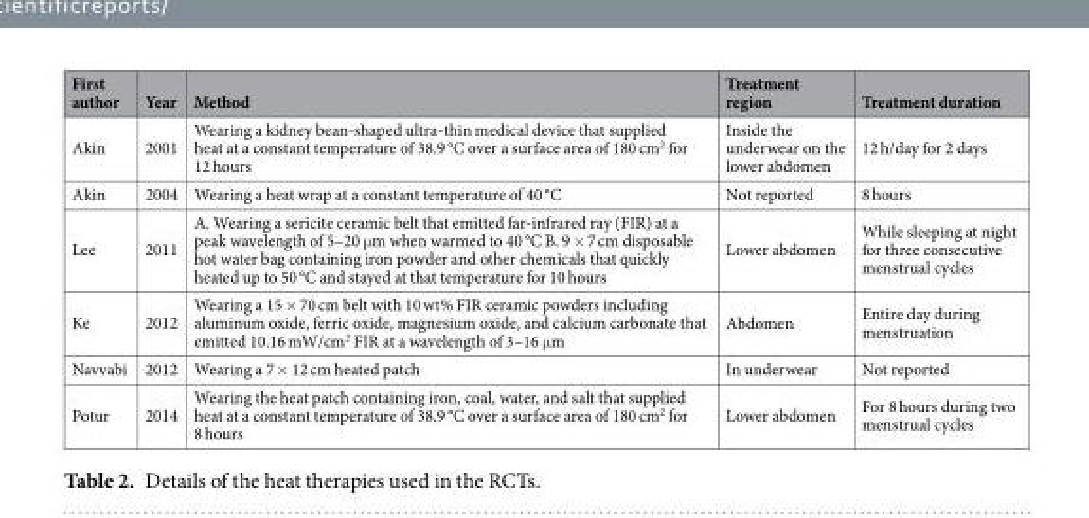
<table><thead><tr><td>First author</td><td>Year</td><td>Method</td><td>Treatment region</td><td>Treatment duration</td></tr></thead><tbody><tr><td>Akin</td><td>2001</td><td>Wearing a kidney bean-shaped ultra-thin medical device that supplied heat at a constant temperature of 38.9 °C over a surface area of 180 cm<sup>2</sup> for 12 hours</td><td>Inside the underwear on the lower abdomen</td><td>12 h/day for 2 days</td></tr><tr><td>Akin</td><td>2004</td><td>Wearing a heat wrap at a constant temperature of 40 °C</td><td>Not reported</td><td>8 hours</td></tr><tr><td>Lee</td><td>2011</td><td>A. Wearing a sericite ceramic belt that emitted far-infrared ray (FIR) at a peak wavelength of 5–20 μm when warmed to 40 °C B. 9 × 7 cm disposable hot water bag containing iron powder and other chemicals that quickly heated up to 50 °C and stayed at that temperature for 10 hours</td><td>Lower abdomen</td><td>While sleeping at night for three consecutive menstrual cycles</td></tr><tr><td>Ke</td><td>2012</td><td>Wearing a 15 × 70 cm belt with 10 wt% FIR ceramic powders including aluminum oxide, ferric oxide, magnesium oxide, and calcium carbonate that emitted 10.16 mW/cm<sup>2</sup> FIR at a wavelength of 3–16 μm</td><td>Abdomen</td><td>Entire day during menstruation</td></tr><tr><td>Navvabi</td><td>2012</td><td>Wearing a 7 × 12 cm heated patch</td><td>In underwear</td><td>Not reported</td></tr><tr><td>Potur</td><td>2014</td><td>Wearing the heat patch containing iron, coal, water, and salt that supplied heat at a constant temperature of 38.9 °C over a surface area of 180 cm<sup>2</sup> for 8 hours</td><td>Lower abdomen</td><td>For 8 hours during two menstrual cycles</td></tr></tbody></table>